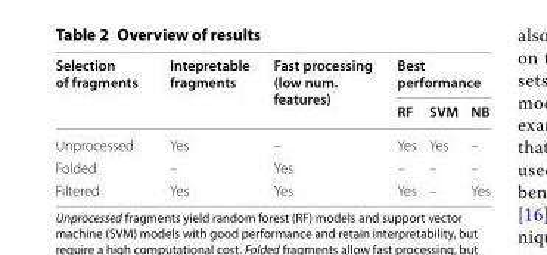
<table><thead><tr><td rowspan="2">Selection of fragments</td><td rowspan="2">Intepretable fragments</td><td rowspan="2">Fast processing (low num. features)</td><td colspan="3">Best performance</td></tr><tr><td>RF</td><td>SVM</td><td>NB</td></tr></thead><tbody><tr><td>Unprocessed</td><td>Yes</td><td>–</td><td>Yes</td><td>Yes</td><td>–</td></tr><tr><td>Folded</td><td>–</td><td>Yes</td><td>–</td><td>–</td><td>–</td></tr><tr><td>Filtered</td><td>Yes</td><td>Yes</td><td>Yes</td><td>–</td><td>Yes</td></tr></tbody></table>